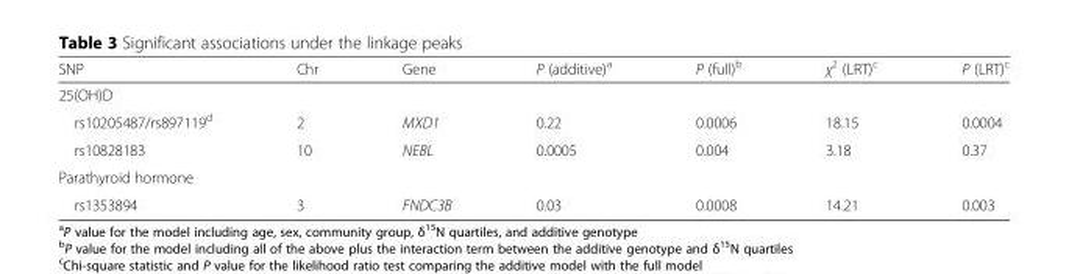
<table><thead><tr><td>SNP</td><td>Chr</td><td>Gene</td><td>P (additive)<sup>a</sup></td><td>P (full)<sup>b</sup></td><td>χ<sup>2</sup> (LRT)<sup>c</sup></td><td>P (LRT)<sup>c</sup></td></tr></thead><tbody><tr><td colspan="7">25(OH)D</td></tr><tr><td>rs10205487/rs897119<sup>d</sup></td><td>2</td><td>MXD1</td><td>0.22</td><td>0.0006</td><td>18.15</td><td>0.0004</td></tr><tr><td>rs10828183</td><td>10</td><td>NEBL</td><td>0.0005</td><td>0.004</td><td>3.18</td><td>0.37</td></tr><tr><td colspan="7">Parathyroid hormone</td></tr><tr><td>rs1353894</td><td>3</td><td>FNDC3B</td><td>0.03</td><td>0.0008</td><td>14.21</td><td>0.003</td></tr></tbody></table>